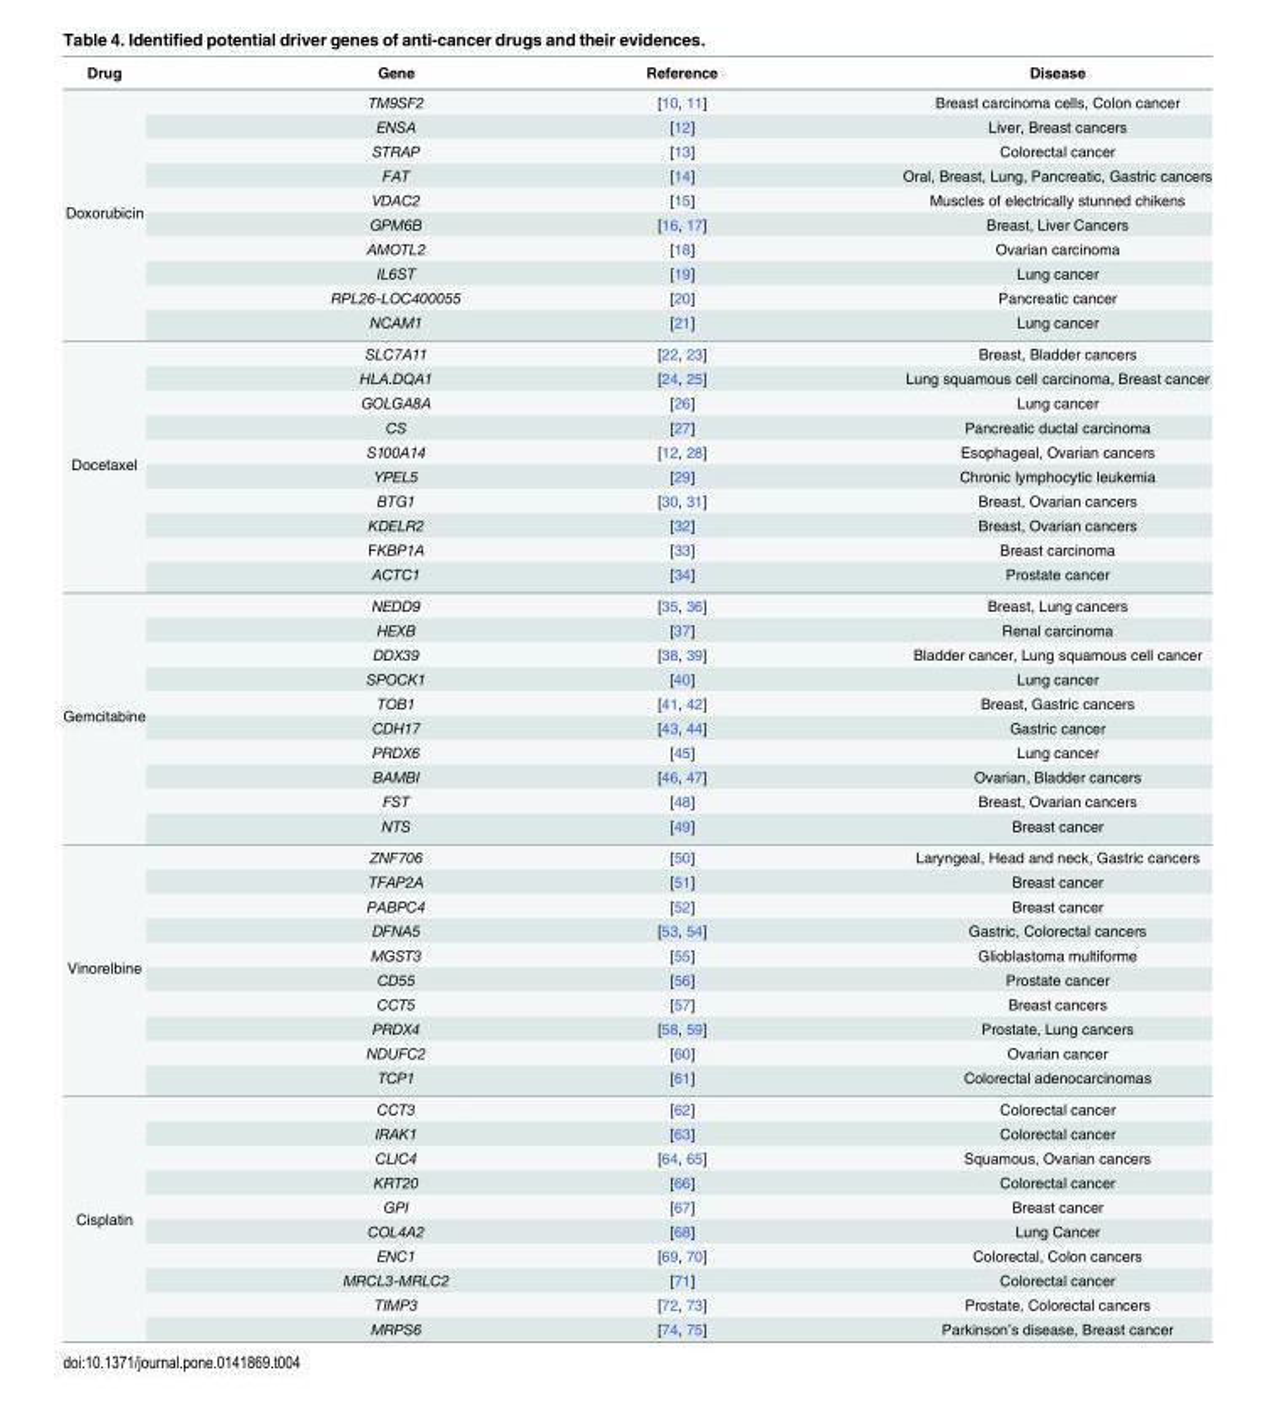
<table><thead><tr><td>Drug</td><td>Gene</td><td>Reference</td><td>Disease</td></tr></thead><tbody><tr><td rowspan="10">Doxorubicin</td><td>TM9SF2</td><td>[10, 11]</td><td>Breast carcinoma cells, Colon cancer</td></tr><tr><td>ENSA</td><td>[12]</td><td>Liver, Breast cancers</td></tr><tr><td>STRAP</td><td>[13]</td><td>Colorectal cancer</td></tr><tr><td>FAT</td><td>[14]</td><td>Oral, Breast, Lung, Pancreatic, Gastric cancers</td></tr><tr><td>VDAC2</td><td>[15]</td><td>Muscles of electrically stunned chikens</td></tr><tr><td>GPM6B</td><td>[16, 17]</td><td>Breast, Liver Cancers</td></tr><tr><td>AMOTL2</td><td>[18]</td><td>Ovarian carcinoma</td></tr><tr><td>IL6ST</td><td>[19]</td><td>Lung cancer</td></tr><tr><td>RPL26-LOC400055</td><td>[20]</td><td>Pancreatic cancer</td></tr><tr><td>NCAM1</td><td>[21]</td><td>Lung cancer</td></tr><tr><td rowspan="10">Docetaxel</td><td>SLC7A11</td><td>[22, 23]</td><td>Breast, Bladder cancers</td></tr><tr><td>HLA.DQA1</td><td>[24, 25]</td><td>Lung squamous cell carcinoma, Breast cancer</td></tr><tr><td>GOLGA8A</td><td>[26]</td><td>Lung cancer</td></tr><tr><td>CS</td><td>[27]</td><td>Pancreatic ductal carcinoma</td></tr><tr><td>S100A14</td><td>[12, 28]</td><td>Esophageal, Ovarian cancers</td></tr><tr><td>YPEL5</td><td>[29]</td><td>Chronic lymphocytic leukemia</td></tr><tr><td>BTG1</td><td>[30, 31]</td><td>Breast, Ovarian cancers</td></tr><tr><td>KDELR2</td><td>[32]</td><td>Breast, Ovarian cancers</td></tr><tr><td>FKBP1A</td><td>[33]</td><td>Breast carcinoma</td></tr><tr><td>ACTC1</td><td>[34]</td><td>Prostate cancer</td></tr><tr><td rowspan="10">Gemcitabine</td><td>NEDD9</td><td>[35, 36]</td><td>Breast, Lung cancers</td></tr><tr><td>HEXB</td><td>[37]</td><td>Renal carcinoma</td></tr><tr><td>DDX39</td><td>[38, 39]</td><td>Bladder cancer, Lung squamous cell cancer</td></tr><tr><td>SPOCK1</td><td>[40]</td><td>Lung cancer</td></tr><tr><td>TOB1</td><td>[41, 42]</td><td>Breast, Gastric cancers</td></tr><tr><td>CDH17</td><td>[43, 44]</td><td>Gastric cancer</td></tr><tr><td>PRDX6</td><td>[45]</td><td>Lung cancer</td></tr><tr><td>BAMBI</td><td>[46, 47]</td><td>Ovarian, Bladder cancers</td></tr><tr><td>FST</td><td>[48]</td><td>Breast, Ovarian cancers</td></tr><tr><td>NTS</td><td>[49]</td><td>Breast cancer</td></tr><tr><td rowspan="10">Vinorelbine</td><td>ZNF706</td><td>[50]</td><td>Laryngeal, Head and neck, Gastric cancers</td></tr><tr><td>TFAP2A</td><td>[51]</td><td>Breast cancer</td></tr><tr><td>PABPC4</td><td>[52]</td><td>Breast cancer</td></tr><tr><td>DFNA5</td><td>[53, 54]</td><td>Gastric, Colorectal cancers</td></tr><tr><td>MGST3</td><td>[55]</td><td>Glioblastoma multiforme</td></tr><tr><td>CD55</td><td>[56]</td><td>Prostate cancer</td></tr><tr><td>CCT5</td><td>[57]</td><td>Breast cancers</td></tr><tr><td>PRDX4</td><td>[58, 59]</td><td>Prostate, Lung cancers</td></tr><tr><td>NDUFC2</td><td>[60]</td><td>Ovarian cancer</td></tr><tr><td>TCP1</td><td>[61]</td><td>Colorectal adenocarcinomas</td></tr><tr><td rowspan="10">Cisplatin</td><td>CCT3</td><td>[62]</td><td>Colorectal cancer</td></tr><tr><td>IRAK1</td><td>[63]</td><td>Colorectal cancer</td></tr><tr><td>CLIC4</td><td>[64, 65]</td><td>Squamous, Ovarian cancers</td></tr><tr><td>KRT20</td><td>[66]</td><td>Colorectal cancer</td></tr><tr><td>GPI</td><td>[67]</td><td>Breast cancer</td></tr><tr><td>COL4A2</td><td>[68]</td><td>Lung Cancer</td></tr><tr><td>ENC1</td><td>[69, 70]</td><td>Colorectal, Colon cancers</td></tr><tr><td>MRCL3-MRLC2</td><td>[71]</td><td>Colorectal cancer</td></tr><tr><td>TIMP3</td><td>[72, 73]</td><td>Prostate, Colorectal cancers</td></tr><tr><td>MRPS6</td><td>[74, 75]</td><td>Parkinson’s disease, Breast cancer</td></tr></tbody></table>